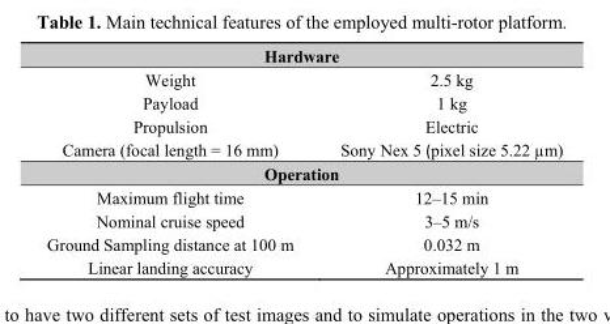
<table><thead><tr><td colspan="2">Hardware</td></tr><tr><td>Weight</td><td>2.5 kg</td></tr></thead><tbody><tr><td>Payload</td><td>1 kg</td></tr><tr><td>Propulsion</td><td>Electric</td></tr><tr><td>Camera (focal length = 16 mm)</td><td>Sony Nex 5 (pixel size 5.22 µm)</td></tr><tr><td colspan="2">Operation</td></tr><tr><td>Maximum flight time</td><td>12–15 min</td></tr><tr><td>Nominal cruise speed</td><td>3–5 m/s</td></tr><tr><td>Ground Sampling distance at 100 m</td><td>0.032 m</td></tr><tr><td>Linear landing accuracy</td><td>Approximately 1 m</td></tr></tbody></table>